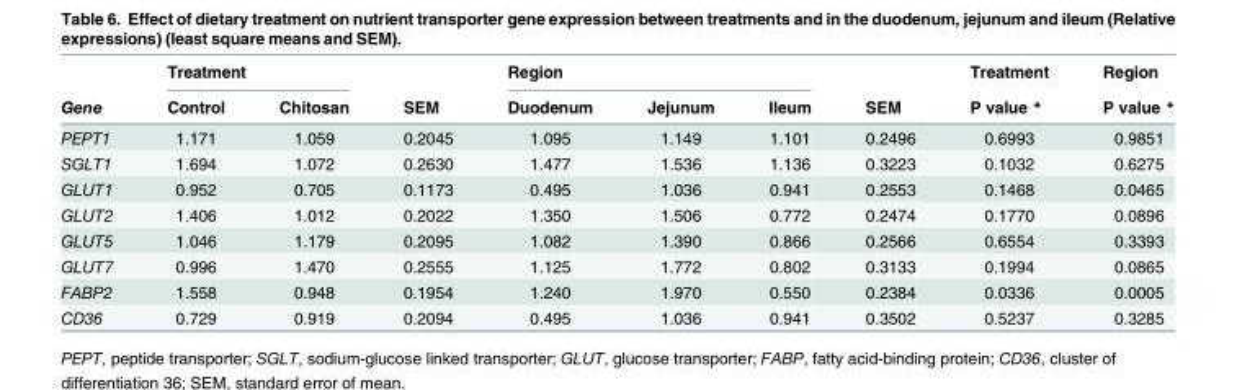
<table><thead><tr><td rowspan="2">Gene</td><td colspan="2">Treatment</td><td rowspan="2">SEM</td><td colspan="3">Region</td><td rowspan="2">SEM</td><td rowspan="2">Treatment P value *</td><td rowspan="2">Region P value *</td></tr><tr><td>Control</td><td>Chitosan</td><td>Duodenum</td><td>Jejunum</td><td>Ileum</td></tr></thead><tbody><tr><td>PEPT1</td><td>1.171</td><td>1.059</td><td>0.2045</td><td>1.095</td><td>1.149</td><td>1.101</td><td>0.2496</td><td>0.6993</td><td>0.9851</td></tr><tr><td>SGLT1</td><td>1.694</td><td>1.072</td><td>0.2630</td><td>1.477</td><td>1.536</td><td>1.136</td><td>0.3223</td><td>0.1032</td><td>0.6275</td></tr><tr><td>GLUT1</td><td>0.952</td><td>0.705</td><td>0.1173</td><td>0.495</td><td>1.036</td><td>0.941</td><td>0.2553</td><td>0.1468</td><td>0.0465</td></tr><tr><td>GLUT2</td><td>1.406</td><td>1.012</td><td>0.2022</td><td>1.350</td><td>1.506</td><td>0.772</td><td>0.2474</td><td>0.1770</td><td>0.0896</td></tr><tr><td>GLUT5</td><td>1.046</td><td>1.179</td><td>0.2095</td><td>1.082</td><td>1.390</td><td>0.866</td><td>0.2566</td><td>0.6554</td><td>0.3393</td></tr><tr><td>GLUT7</td><td>0.996</td><td>1.470</td><td>0.2555</td><td>1.125</td><td>1.772</td><td>0.802</td><td>0.3133</td><td>0.1994</td><td>0.0865</td></tr><tr><td>FABP2</td><td>1.558</td><td>0.948</td><td>0.1954</td><td>1.240</td><td>1.970</td><td>0.550</td><td>0.2384</td><td>0.0336</td><td>0.0005</td></tr><tr><td>CD36</td><td>0.729</td><td>0.919</td><td>0.2094</td><td>0.495</td><td>1.036</td><td>0.941</td><td>0.3502</td><td>0.5237</td><td>0.3285</td></tr></tbody></table>